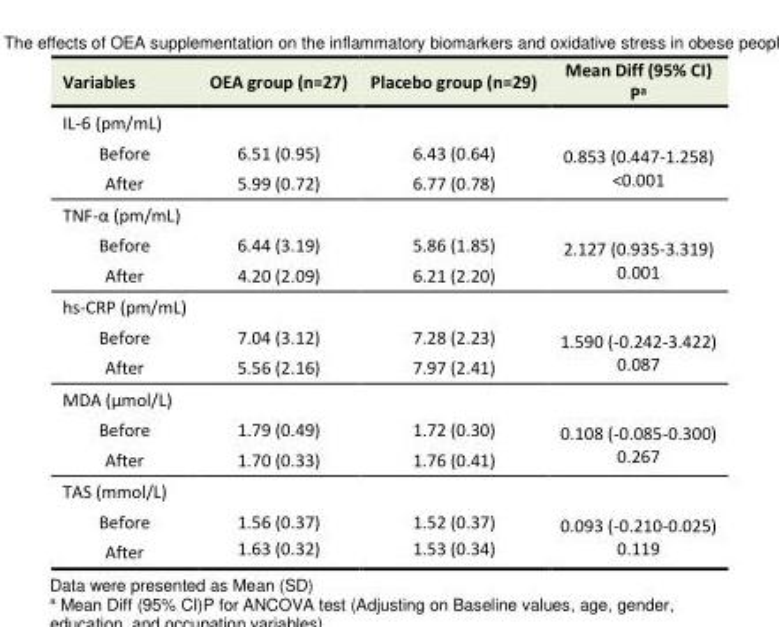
<table><tbody><tr><td>Variables</td><td>OEA group (n=27)</td><td>Placebo group (n=29)</td><td>Mean Diff (95% CI) P<sup>a</sup></td></tr><tr><td colspan="4">IL-6 (pm/mL)</td></tr><tr><td>Before</td><td>6.51 (0.95)</td><td>6.43 (0.64)</td><td rowspan="2">0.853 (0.447-1.258) &lt;0.001</td></tr><tr><td>After</td><td>5.99 (0.72)</td><td>6.77 (0.78)</td></tr><tr><td colspan="4">TNF-α (pm/mL)</td></tr><tr><td>Before</td><td>6.44 (3.19)</td><td>5.86 (1.85)</td><td rowspan="2">2.127 (0.935-3.319) 0.001</td></tr><tr><td>After</td><td>4.20 (2.09)</td><td>6.21 (2.20)</td></tr><tr><td colspan="4">hs-CRP (pm/mL)</td></tr><tr><td>Before</td><td>7.04 (3.12)</td><td>7.28 (2.23)</td><td rowspan="2">1.590 (-0.242-3.422) 0.087</td></tr><tr><td>After</td><td>5.56 (2.16)</td><td>7.97 (2.41)</td></tr><tr><td colspan="4">MDA (µmol/L)</td></tr><tr><td>Before</td><td>1.79 (0.49)</td><td>1.72 (0.30)</td><td rowspan="2">0.108 (-0.085-0.300) 0.267</td></tr><tr><td>After</td><td>1.70 (0.33)</td><td>1.76 (0.41)</td></tr><tr><td colspan="4">TAS (mmol/L)</td></tr><tr><td>Before</td><td>1.56 (0.37)</td><td>1.52 (0.37)</td><td rowspan="2">0.093 (-0.210-0.025) 0.119</td></tr><tr><td>After</td><td>1.63 (0.32)</td><td>1.53 (0.34)</td></tr></tbody></table>